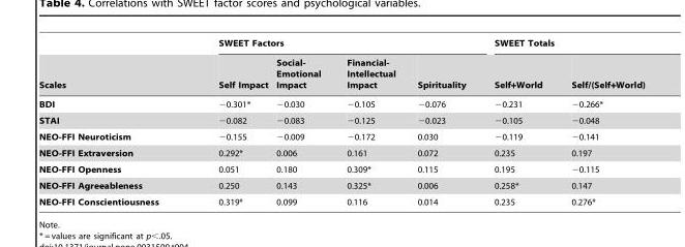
<table><thead><tr><td rowspan="2">Scales</td><td colspan="4">SWEET Factors</td><td colspan="2">SWEET Totals</td></tr><tr><td>Self Impact</td><td>Social- Emotional Impact</td><td>Financial- Intellectual Impact</td><td>Spirituality</td><td>Self+World</td><td>Self/(Self+World)</td></tr></thead><tbody><tr><td>BDI</td><td>−0.301*</td><td>−0.030</td><td>−0.105</td><td>−0.076</td><td>−0.231</td><td>−0.266*</td></tr><tr><td>STAI</td><td>−0.082</td><td>−0.083</td><td>−0.125</td><td>−0.023</td><td>−0.105</td><td>−0.048</td></tr><tr><td>NEO-FFI Neuroticism</td><td>−0.155</td><td>−0.009</td><td>−0.172</td><td>0.030</td><td>−0.119</td><td>−0.141</td></tr><tr><td>NEO-FFI Extraversion</td><td>0.292*</td><td>0.006</td><td>0.161</td><td>0.072</td><td>0.235</td><td>0.197</td></tr><tr><td>NEO-FFI Openness</td><td>0.051</td><td>0.180</td><td>0.309*</td><td>0.115</td><td>0.195</td><td>−0.115</td></tr><tr><td>NEO-FFI Agreeableness</td><td>0.250</td><td>0.143</td><td>0.325*</td><td>0.006</td><td>0.258*</td><td>0.147</td></tr><tr><td>NEO-FFI Conscientiousness</td><td>0.319*</td><td>0.099</td><td>0.116</td><td>0.014</td><td>0.235</td><td>0.276*</td></tr></tbody></table>